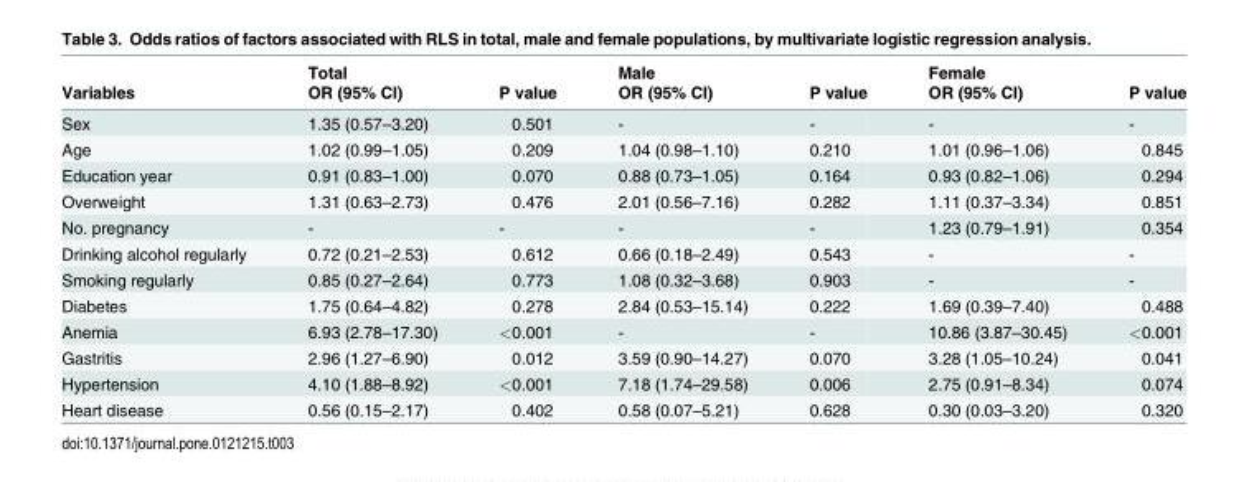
<table><thead><tr><td rowspan="2">Variables</td><td rowspan="2">Total OR (95% CI)</td><td rowspan="2">P value</td><td rowspan="2">Male OR (95% CI)</td><td rowspan="2">P value</td><td rowspan="2">Female OR (95% CI)</td><td rowspan="2">P value</td></tr><tr></tr></thead><tbody><tr><td>Sex</td><td>1.35 (0.57–3.20)</td><td>0.501</td><td>-</td><td>-</td><td>-</td><td>-</td></tr><tr><td>Age</td><td>1.02 (0.99–1.05)</td><td>0.209</td><td>1.04 (0.98–1.10)</td><td>0.210</td><td>1.01 (0.96–1.06)</td><td>0.845</td></tr><tr><td>Education year</td><td>0.91 (0.83–1.00)</td><td>0.070</td><td>0.88 (0.73–1.05)</td><td>0.164</td><td>0.93 (0.82–1.06)</td><td>0.294</td></tr><tr><td>Overweight</td><td>1.31 (0.63–2.73)</td><td>0.476</td><td>2.01 (0.56–7.16)</td><td>0.282</td><td>1.11 (0.37–3.34)</td><td>0.851</td></tr><tr><td>No. pregnancy</td><td>-</td><td>-</td><td>-</td><td>-</td><td>1.23 (0.79–1.91)</td><td>0.354</td></tr><tr><td>Drinking alcohol regularly</td><td>0.72 (0.21–2.53)</td><td>0.612</td><td>0.66 (0.18–2.49)</td><td>0.543</td><td>-</td><td>-</td></tr><tr><td>Smoking regularly</td><td>0.85 (0.27–2.64)</td><td>0.773</td><td>1.08 (0.32–3.68)</td><td>0.903</td><td>-</td><td>-</td></tr><tr><td>Diabetes</td><td>1.75 (0.64–4.82)</td><td>0.278</td><td>2.84 (0.53–15.14)</td><td>0.222</td><td>1.69 (0.39–7.40)</td><td>0.488</td></tr><tr><td>Anemia</td><td>6.93 (2.78–17.30)</td><td>&lt;0.001</td><td>-</td><td>-</td><td>10.86 (3.87–30.45)</td><td>&lt;0.001</td></tr><tr><td>Gastritis</td><td>2.96 (1.27–6.90)</td><td>0.012</td><td>3.59 (0.90–14.27)</td><td>0.070</td><td>3.28 (1.05–10.24)</td><td>0.041</td></tr><tr><td>Hypertension</td><td>4.10 (1.88–8.92)</td><td>&lt;0.001</td><td>7.18 (1.74–29.58)</td><td>0.006</td><td>2.75 (0.91–8.34)</td><td>0.074</td></tr><tr><td>Heart disease</td><td>0.56 (0.15–2.17)</td><td>0.402</td><td>0.58 (0.07–5.21)</td><td>0.628</td><td>0.30 (0.03–3.20)</td><td>0.320</td></tr></tbody></table>